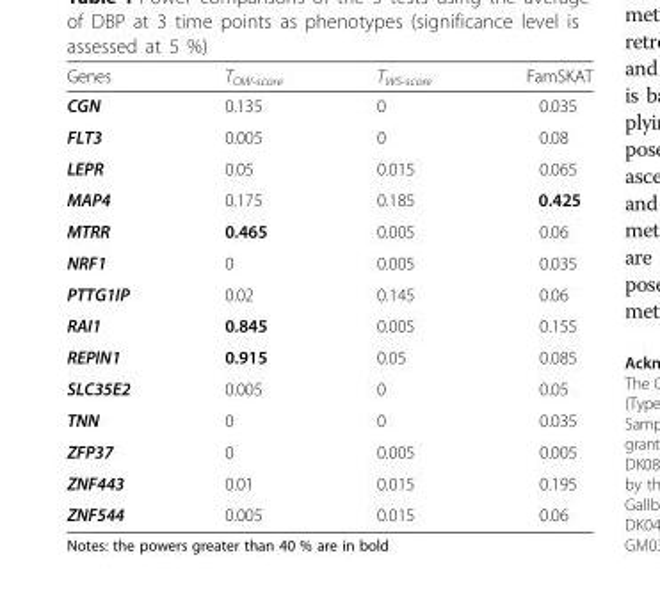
<table><thead><tr><td>Genes</td><td>T<sub>OW-score</sub></td><td>T<sub>WS-score</sub></td><td>FamSKAT</td></tr></thead><tbody><tr><td>CGN</td><td>0.135</td><td>0</td><td>0.035</td></tr><tr><td>FLT3</td><td>0.005</td><td>0</td><td>0.08</td></tr><tr><td>LEPR</td><td>0.05</td><td>0.015</td><td>0.065</td></tr><tr><td>MAP4</td><td>0.175</td><td>0.185</td><td>0.425</td></tr><tr><td>MTRR</td><td>0.465</td><td>0.005</td><td>0.06</td></tr><tr><td>NRF1</td><td>0</td><td>0.005</td><td>0.035</td></tr><tr><td>PTTG1IP</td><td>0.02</td><td>0.145</td><td>0.06</td></tr><tr><td>RAI1</td><td>0.845</td><td>0.005</td><td>0.155</td></tr><tr><td>REPIN1</td><td>0.915</td><td>0.05</td><td>0.085</td></tr><tr><td>SLC35E2</td><td>0.005</td><td>0</td><td>0.05</td></tr><tr><td>TNN</td><td>0</td><td>0</td><td>0.035</td></tr><tr><td>ZFP37</td><td>0</td><td>0.005</td><td>0.005</td></tr><tr><td>ZNF443</td><td>0.01</td><td>0.015</td><td>0.195</td></tr><tr><td>ZNF544</td><td>0.005</td><td>0.015</td><td>0.06</td></tr></tbody></table>